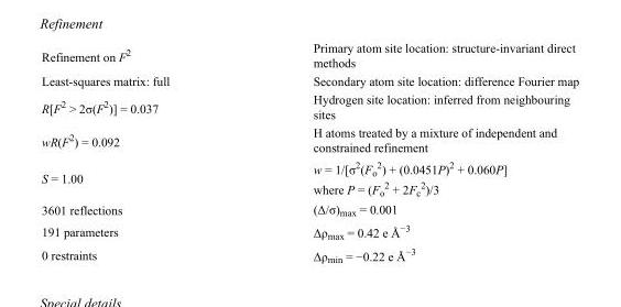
<table><tbody><tr><td>Refinement on F<sup>2</sup></td><td>Primary atom site location: structure-invariant direct methods</td></tr><tr><td>Least-squares matrix: full</td><td>Secondary atom site location: difference Fourier map</td></tr><tr><td>R[F<sup>2</sup> &gt; 2σ(F<sup>2</sup>)] = 0.037</td><td>Hydrogen site location: inferred from neighbouring sites</td></tr><tr><td>wR(F<sup>2</sup>) = 0.092</td><td>H atoms treated by a mixture of independent and constrained refinement</td></tr><tr><td>S = 1.00</td><td>w = 1/[σ<sup>2</sup>(F<sub>o</sub> <sup>2</sup>) + (0.0451P)<sup>2</sup> + 0.060P] where P = (F<sub>o</sub> <sup>2</sup> + 2F<sub>c</sub> <sup>2</sup>)/3</td></tr><tr><td>3601 reflections</td><td>(Δ/σ)<sub>max</sub> = 0.001</td></tr><tr><td>191 parameters</td><td>Δρ<sub>max</sub> = 0.42 e Å<sup>−3</sup></td></tr><tr><td>0 restraints</td><td>Δρ<sub>min</sub> = −0.22 e Å<sup>−3</sup></td></tr></tbody></table>